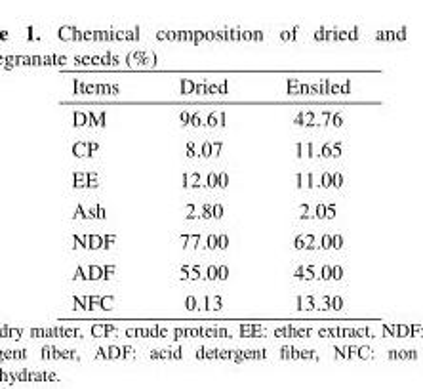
<table><thead><tr><td>Items</td><td>Dried</td><td>Ensiled</td></tr></thead><tbody><tr><td>DM</td><td>96.61</td><td>42.76</td></tr><tr><td>CP</td><td>8.07</td><td>11.65</td></tr><tr><td>EE</td><td>12.00</td><td>11.00</td></tr><tr><td>Ash</td><td>2.80</td><td>2.05</td></tr><tr><td>NDF</td><td>77.00</td><td>62.00</td></tr><tr><td>ADF</td><td>55.00</td><td>45.00</td></tr><tr><td>NFC</td><td>0.13</td><td>13.30</td></tr></tbody></table>